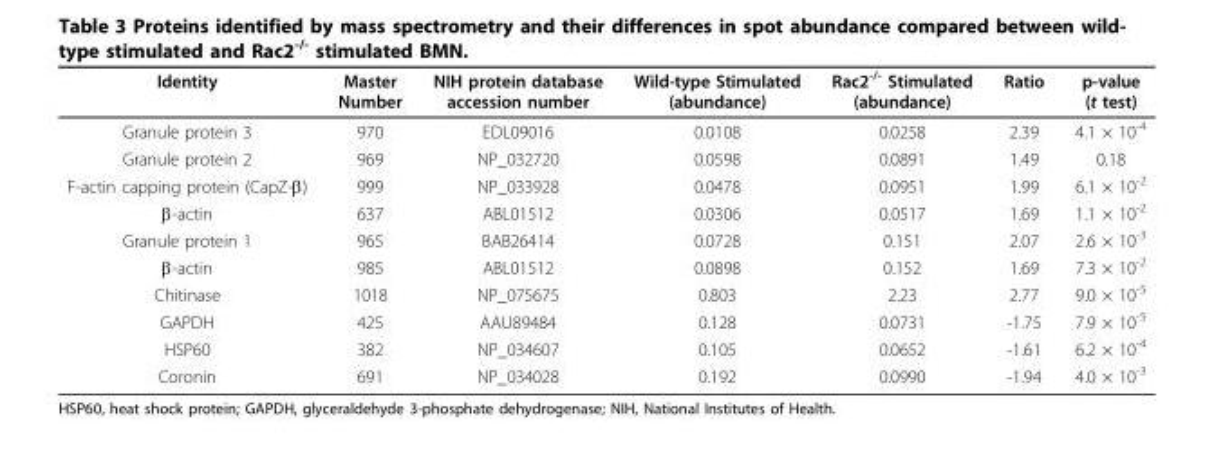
<table><thead><tr><td>Identity</td><td>Master Number</td><td>NIH protein database accession number</td><td>Wild-type Stimulated (abundance)</td><td>Rac2<sup>-/-</sup> Stimulated (abundance)</td><td>Ratio</td><td>p-value (t test)</td></tr></thead><tbody><tr><td>Granule protein 3</td><td>970</td><td>EDL09016</td><td>0.0108</td><td>0.0258</td><td>2.39</td><td>4.1 × 10<sup>-4</sup></td></tr><tr><td>Granule protein 2</td><td>969</td><td>NP_032720</td><td>0.0598</td><td>0.0891</td><td>1.49</td><td>0.18</td></tr><tr><td>F-actin capping protein (CapZ-β)</td><td>999</td><td>NP_033928</td><td>0.0478</td><td>0.0951</td><td>1.99</td><td>6.1 × 10<sup>-2</sup></td></tr><tr><td>β-actin</td><td>637</td><td>ABL01512</td><td>0.0306</td><td>0.0517</td><td>1.69</td><td>1.1 × 10<sup>-2</sup></td></tr><tr><td>Granule protein 1</td><td>965</td><td>BAB26414</td><td>0.0728</td><td>0.151</td><td>2.07</td><td>2.6 × 10<sup>-3</sup></td></tr><tr><td>β-actin</td><td>985</td><td>ABL01512</td><td>0.0898</td><td>0.152</td><td>1.69</td><td>7.3 × 10<sup>-2</sup></td></tr><tr><td>Chitinase</td><td>1018</td><td>NP_075675</td><td>0.803</td><td>2.23</td><td>2.77</td><td>9.0 × 10<sup>-5</sup></td></tr><tr><td>GAPDH</td><td>425</td><td>AAU89484</td><td>0.128</td><td>0.0731</td><td>-1.75</td><td>7.9 × 10<sup>-5</sup></td></tr><tr><td>HSP60</td><td>382</td><td>NP_034607</td><td>0.105</td><td>0.0652</td><td>-1.61</td><td>6.2 × 10<sup>-4</sup></td></tr><tr><td>Coronin</td><td>691</td><td>NP_034028</td><td>0.192</td><td>0.0990</td><td>-1.94</td><td>4.0 × 10<sup>-3</sup></td></tr></tbody></table>